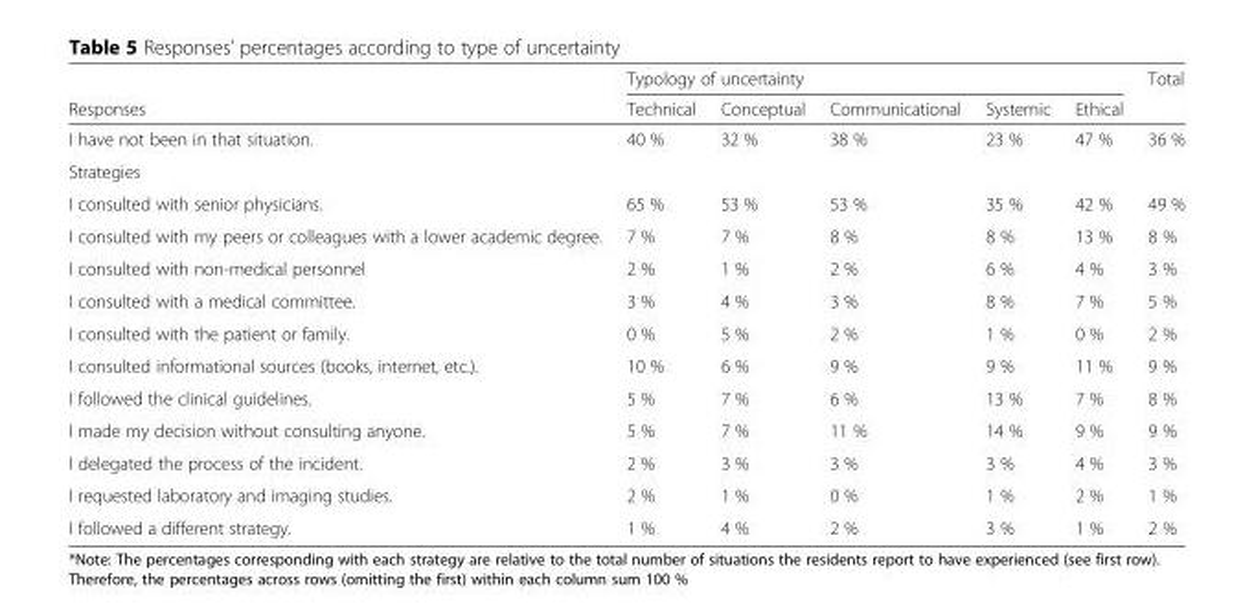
<table><thead><tr><td rowspan="2">Responses</td><td colspan="5">Typology of uncertainty</td><td rowspan="2">Total</td></tr><tr><td>Technical</td><td>Conceptual</td><td>Communicational</td><td>Systemic</td><td>Ethical</td></tr></thead><tbody><tr><td>I have not been in that situation.</td><td>40 %</td><td>32 %</td><td>38 %</td><td>23 %</td><td>47 %</td><td>36 %</td></tr><tr><td colspan="7">Strategies</td></tr><tr><td>I consulted with senior physicians.</td><td>65 %</td><td>53 %</td><td>53 %</td><td>35 %</td><td>42 %</td><td>49 %</td></tr><tr><td>I consulted with my peers or colleagues with a lower academic degree.</td><td>7 %</td><td>7 %</td><td>8 %</td><td>8 %</td><td>13 %</td><td>8 %</td></tr><tr><td>I consulted with non-medical personnel</td><td>2 %</td><td>1 %</td><td>2 %</td><td>6 %</td><td>4 %</td><td>3 %</td></tr><tr><td>I consulted with a medical committee.</td><td>3 %</td><td>4 %</td><td>3 %</td><td>8 %</td><td>7 %</td><td>5 %</td></tr><tr><td>I consulted with the patient or family.</td><td>0 %</td><td>5 %</td><td>2 %</td><td>1 %</td><td>0 %</td><td>2 %</td></tr><tr><td>I consulted informational sources (books, internet, etc.).</td><td>10 %</td><td>6 %</td><td>9 %</td><td>9 %</td><td>11 %</td><td>9 %</td></tr><tr><td>I followed the clinical guidelines.</td><td>5 %</td><td>7 %</td><td>6 %</td><td>13 %</td><td>7 %</td><td>8 %</td></tr><tr><td>I made my decision without consulting anyone.</td><td>5 %</td><td>7 %</td><td>11 %</td><td>14 %</td><td>9 %</td><td>9 %</td></tr><tr><td>I delegated the process of the incident.</td><td>2 %</td><td>3 %</td><td>3 %</td><td>3 %</td><td>4 %</td><td>3 %</td></tr><tr><td>I requested laboratory and imaging studies.</td><td>2 %</td><td>1 %</td><td>0 %</td><td>1 %</td><td>2 %</td><td>1 %</td></tr><tr><td>I followed a different strategy.</td><td>1 %</td><td>4 %</td><td>2 %</td><td>3 %</td><td>1 %</td><td>2 %</td></tr></tbody></table>